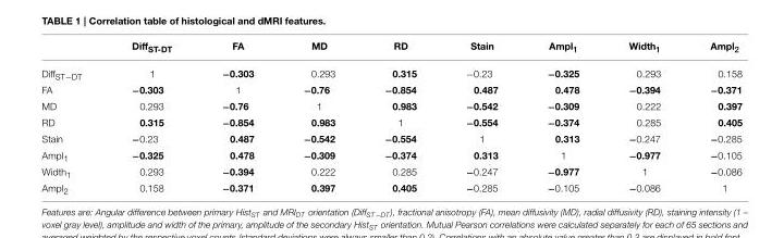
<table><thead><tr><td></td><td>Diff<sub>ST-DT</sub></td><td>FA</td><td>MD</td><td>RD</td><td>Stain</td><td>Ampl<sub>1</sub></td><td>Width<sub>1</sub></td><td>Ampl<sub>2</sub></td></tr></thead><tbody><tr><td>Diff<sub>ST−DT</sub></td><td>1</td><td>−0.303</td><td>0.293</td><td>0.315</td><td>−0.23</td><td>−0.325</td><td>0.293</td><td>0.158</td></tr><tr><td>FA</td><td>−0.303</td><td>1</td><td>−0.76</td><td>−0.854</td><td>0.487</td><td>0.478</td><td>−0.394</td><td>−0.371</td></tr><tr><td>MD</td><td>0.293</td><td>−0.76</td><td>1</td><td>0.983</td><td>−0.542</td><td>−0.309</td><td>0.222</td><td>0.397</td></tr><tr><td>RD</td><td>0.315</td><td>−0.854</td><td>0.983</td><td>1</td><td>−0.554</td><td>−0.374</td><td>0.285</td><td>0.405</td></tr><tr><td>Stain</td><td>−0.23</td><td>0.487</td><td>−0.542</td><td>−0.554</td><td>1</td><td>0.313</td><td>−0.247</td><td>−0.285</td></tr><tr><td>Ampl<sub>1</sub></td><td>−0.325</td><td>0.478</td><td>−0.309</td><td>−0.374</td><td>0.313</td><td>1</td><td>−0.977</td><td>−0.105</td></tr><tr><td>Width<sub>1</sub></td><td>0.293</td><td>−0.394</td><td>0.222</td><td>0.285</td><td>−0.247</td><td>−0.977</td><td>1</td><td>−0.086</td></tr><tr><td>Ampl<sub>2</sub></td><td>0.158</td><td>−0.371</td><td>0.397</td><td>0.405</td><td>−0.285</td><td>−0.105</td><td>−0.086</td><td>1</td></tr></tbody></table>